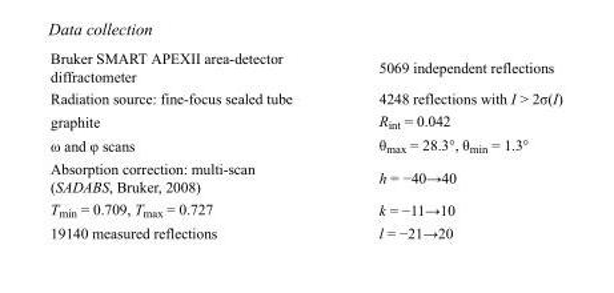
<table><tbody><tr><td>Bruker SMART APEXII area-detector diffractometer</td><td>5069 independent reflections</td></tr><tr><td>Radiation source: fine-focus sealed tube</td><td>4248 reflections with I &gt; 2σ(I)</td></tr><tr><td>graphite</td><td>R<sub>int</sub> = 0.042</td></tr><tr><td>ω and φ scans</td><td>θ<sub>max</sub> = 28.3°, θ<sub>min</sub> = 1.3°</td></tr><tr><td>Absorption correction: multi-scan (SADABS, Bruker, 2008)</td><td>h = −40→40</td></tr><tr><td>T<sub>min</sub> = 0.709, T<sub>max</sub> = 0.727</td><td>k = −11→10</td></tr><tr><td>19140 measured reflections</td><td>l = −21→20</td></tr></tbody></table>